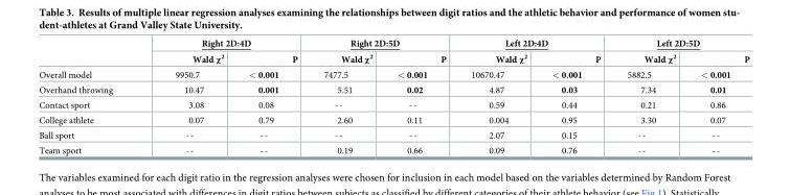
<table><thead><tr><td rowspan="2"></td><td colspan="2">Right 2D:4D</td><td colspan="2">Right 2D:5D</td><td colspan="2">Left 2D:4D</td><td colspan="2">Left 2D:5D</td></tr><tr><td>Wald χ<sup>2</sup></td><td>P</td><td>Wald χ<sup>2</sup></td><td>P</td><td>Wald χ<sup>2</sup></td><td>P</td><td>Wald χ<sup>2</sup></td><td>P</td></tr></thead><tbody><tr><td>Overall model</td><td>9950.7</td><td>&lt; 0.001</td><td>7477.5</td><td>&lt; 0.001</td><td>10670.47</td><td>&lt; 0.001</td><td>5882.5</td><td>&lt; 0.001</td></tr><tr><td>Overhand throwing</td><td>10.47</td><td>0.001</td><td>5.51</td><td>0.02</td><td>4.87</td><td>0.03</td><td>7.34</td><td>0.01</td></tr><tr><td>Contact sport</td><td>3.08</td><td>0.08</td><td>--</td><td>--</td><td>0.59</td><td>0.44</td><td>0.21</td><td>0.86</td></tr><tr><td>College athlete</td><td>0.07</td><td>0.79</td><td>2.60</td><td>0.11</td><td>0.004</td><td>0.95</td><td>3.30</td><td>0.07</td></tr><tr><td>Ball sport</td><td>--</td><td>--</td><td>--</td><td>--</td><td>2.07</td><td>0.15</td><td>--</td><td>--</td></tr><tr><td>Team sport</td><td>--</td><td>--</td><td>0.19</td><td>0.66</td><td>0.09</td><td>0.76</td><td>--</td><td>--</td></tr></tbody></table>